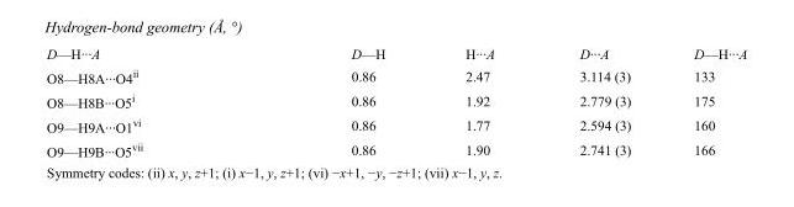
<table><tbody><tr><td>D—H···A</td><td>D—H</td><td>H···A</td><td>D···A</td><td>D—H···A</td></tr><tr><td>O8—H8A···O4<sup>ii</sup></td><td>0.86</td><td>2.47</td><td>3.114 (3)</td><td>133</td></tr><tr><td>O8—H8B···O5<sup>i</sup></td><td>0.86</td><td>1.92</td><td>2.779 (3)</td><td>175</td></tr><tr><td>O9—H9A···O1<sup>vi</sup></td><td>0.86</td><td>1.77</td><td>2.594 (3)</td><td>160</td></tr><tr><td>O9—H9B···O5<sup>vii</sup></td><td>0.86</td><td>1.90</td><td>2.741 (3)</td><td>166</td></tr></tbody></table>